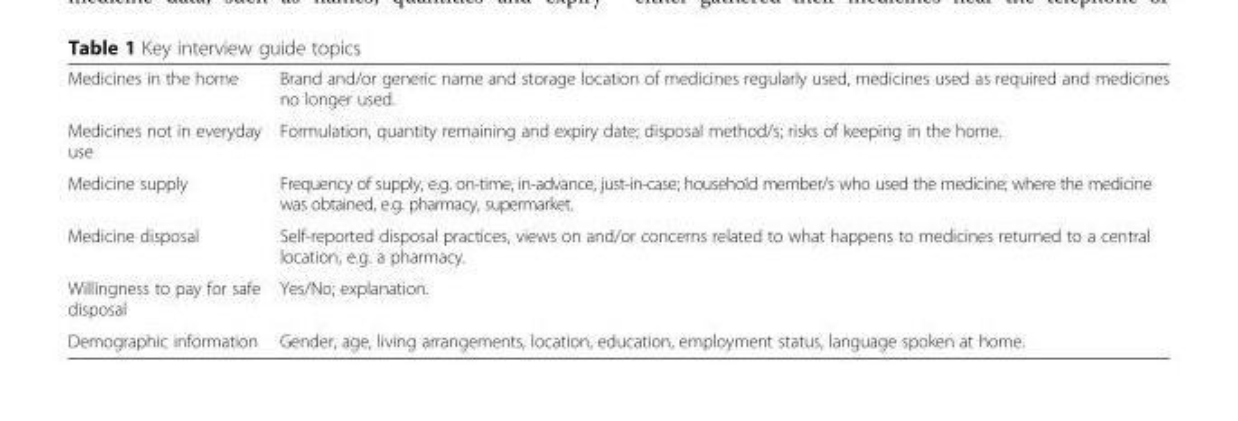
<table><tbody><tr><td>Medicines in the home</td><td>Brand and/or generic name and storage location of medicines regularly used, medicines used as required and medicines no longer used.</td></tr><tr><td>Medicines not in everyday use</td><td>Formulation, quantity remaining and expiry date; disposal method/s; risks of keeping in the home.</td></tr><tr><td>Medicine supply</td><td>Frequency of supply, e.g. on-time, in-advance, just-in-case; household member/s who used the medicine; where the medicine was obtained, e.g. pharmacy, supermarket.</td></tr><tr><td>Medicine disposal</td><td>Self-reported disposal practices, views on and/or concerns related to what happens to medicines returned to a central location, e.g. a pharmacy.</td></tr><tr><td>Willingness to pay for safe disposal</td><td>Yes/No; explanation.</td></tr><tr><td>Demographic information</td><td>Gender, age, living arrangements, location, education, employment status, language spoken at home.</td></tr></tbody></table>